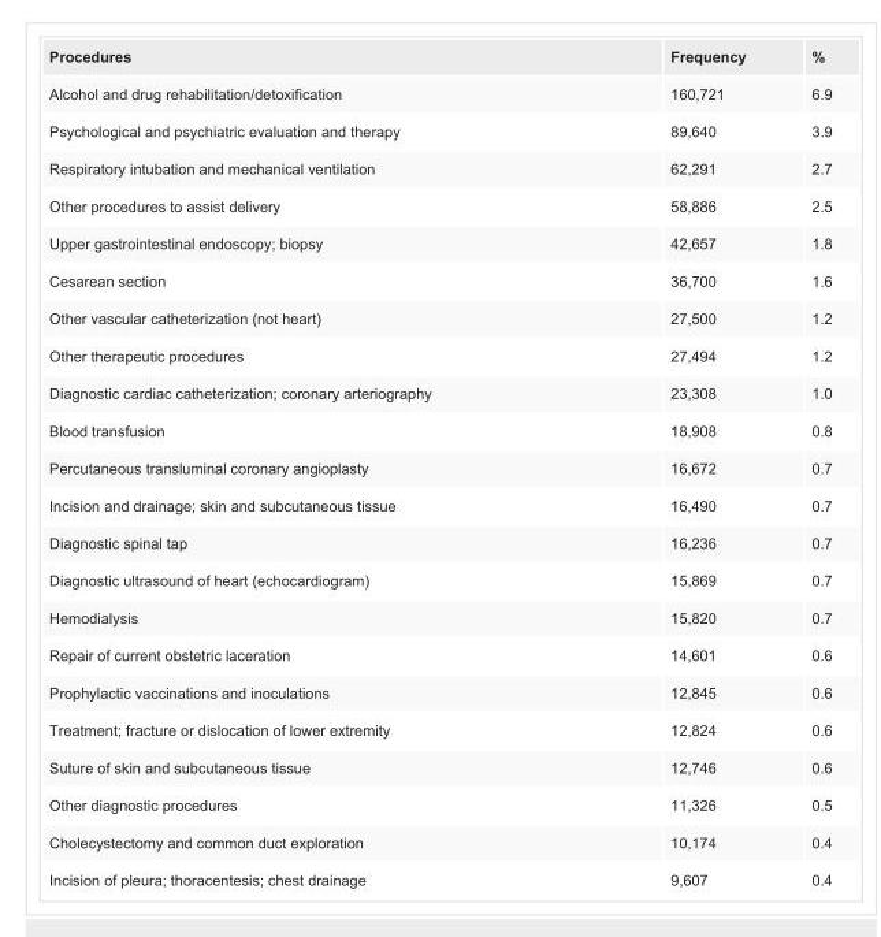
<table><tbody><tr><td>Procedures</td><td>Frequency</td><td>%</td></tr><tr><td>Alcohol and drug rehabilitation/detoxification</td><td>160,721</td><td>6.9</td></tr><tr><td>Psychological and psychiatric evaluation and therapy</td><td>89,640</td><td>3.9</td></tr><tr><td>Respiratory intubation and mechanical ventilation</td><td>62,291</td><td>2.7</td></tr><tr><td>Other procedures to assist delivery</td><td>58,886</td><td>2.5</td></tr><tr><td>Upper gastrointestinal endoscopy; biopsy</td><td>42,657</td><td>1.8</td></tr><tr><td>Cesarean section</td><td>36,700</td><td>1.6</td></tr><tr><td>Other vascular catheterization (not heart)</td><td>27,500</td><td>1.2</td></tr><tr><td>Other therapeutic procedures</td><td>27,494</td><td>1.2</td></tr><tr><td>Diagnostic cardiac catheterization; coronary arteriography</td><td>23,308</td><td>1.0</td></tr><tr><td>Blood transfusion</td><td>18,908</td><td>0.8</td></tr><tr><td>Percutaneous transluminal coronary angioplasty</td><td>16,672</td><td>0.7</td></tr><tr><td>Incision and drainage; skin and subcutaneous tissue</td><td>16,490</td><td>0.7</td></tr><tr><td>Diagnostic spinal tap</td><td>16,236</td><td>0.7</td></tr><tr><td>Diagnostic ultrasound of heart (echocardiogram)</td><td>15,869</td><td>0.7</td></tr><tr><td>Hemodialysis</td><td>15,820</td><td>0.7</td></tr><tr><td>Repair of current obstetric laceration</td><td>14,601</td><td>0.6</td></tr><tr><td>Prophylactic vaccinations and inoculations</td><td>12,845</td><td>0.6</td></tr><tr><td>Treatment; fracture or dislocation of lower extremity</td><td>12,824</td><td>0.6</td></tr><tr><td>Suture of skin and subcutaneous tissue</td><td>12,746</td><td>0.6</td></tr><tr><td>Other diagnostic procedures</td><td>11,326</td><td>0.5</td></tr><tr><td>Cholecystectomy and common duct exploration</td><td>10,174</td><td>0.4</td></tr><tr><td>Incision of pleura; thoracentesis; chest drainage</td><td>9,607</td><td>0.4</td></tr></tbody></table>